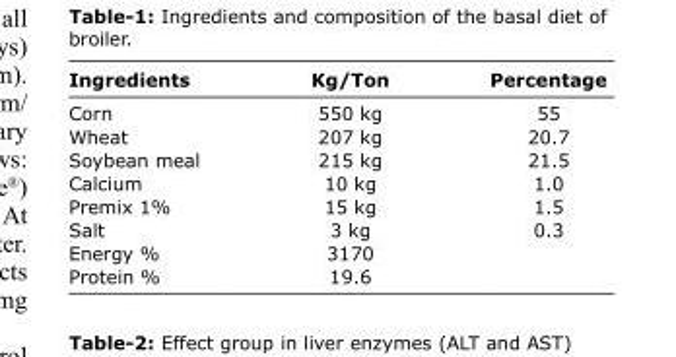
<table><thead><tr><td>Ingredients</td><td>Kg/Ton</td><td>Percentage</td></tr></thead><tbody><tr><td>Corn</td><td>550 kg</td><td>55</td></tr><tr><td>Wheat</td><td>207 kg</td><td>20.7</td></tr><tr><td>Soybean meal</td><td>215 kg</td><td>21.5</td></tr><tr><td>Calcium</td><td>10 kg</td><td>1.0</td></tr><tr><td>Premix 1%</td><td>15 kg</td><td>1.5</td></tr><tr><td>Salt</td><td>3 kg</td><td>0.3</td></tr><tr><td>Energy %</td><td>3170</td><td></td></tr><tr><td>Protein %</td><td>19.6</td><td></td></tr></tbody></table>